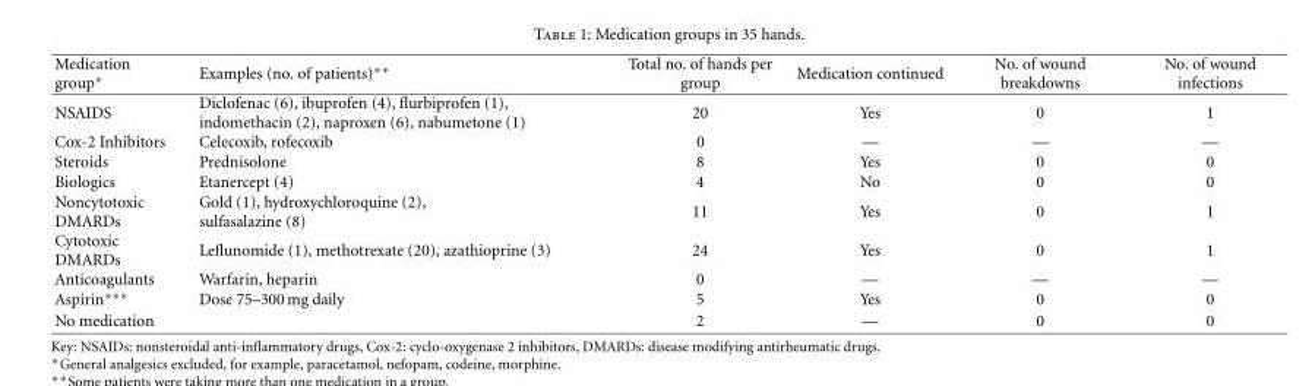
<table><thead><tr><td>Medication group∗</td><td>Examples (no. of patients)∗∗</td><td>Total no. of hands per group</td><td>Medication continued</td><td>No. of wound breakdowns</td><td>No. of wound infections</td></tr></thead><tbody><tr><td>NSAIDS</td><td>Diclofenac (6), ibuprofen (4), flurbiprofen (1), indomethacin (2), naproxen (6), nabumetone (1)</td><td>20</td><td>Yes</td><td>0</td><td>1</td></tr><tr><td>Cox-2 Inhibitors</td><td>Celecoxib, rofecoxib</td><td>0</td><td>—</td><td>—</td><td>—</td></tr><tr><td>Steroids</td><td>Prednisolone</td><td>8</td><td>Yes</td><td>0</td><td>0</td></tr><tr><td>Biologics</td><td>Etanercept (4)</td><td>4</td><td>No</td><td>0</td><td>0</td></tr><tr><td>Noncytotoxic DMARDs</td><td>Gold (1), hydroxychloroquine (2), sulfasalazine (8)</td><td>11</td><td>Yes</td><td>0</td><td>1</td></tr><tr><td>Cytotoxic DMARDs</td><td>Leflunomide (1), methotrexate (20), azathioprine (3)</td><td>24</td><td>Yes</td><td>0</td><td>1</td></tr><tr><td>Anticoagulants</td><td>Warfarin, heparin</td><td>0</td><td>—</td><td>—</td><td>—</td></tr><tr><td>Aspirin∗∗∗</td><td>Dose 75–300 mg daily</td><td>5</td><td>Yes</td><td>0</td><td>0</td></tr><tr><td>No medication</td><td></td><td>2</td><td>—</td><td>0</td><td>0</td></tr></tbody></table>